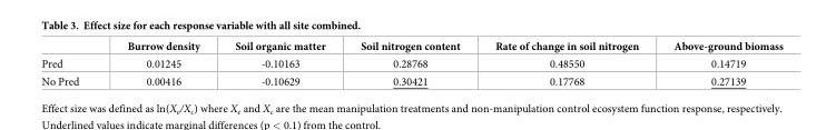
<table><thead><tr><td></td><td>Burrow density</td><td>Soil organic matter</td><td>Soil nitrogen content</td><td>Rate of change in soil nitrogen</td><td>Above-ground biomass</td></tr></thead><tbody><tr><td>Pred</td><td>0.01245</td><td>-0.10163</td><td>0.28768</td><td>0.48550</td><td>0.14719</td></tr><tr><td>No Pred</td><td>0.00416</td><td>-0.10629</td><td>0.30421</td><td>0.17768</td><td>0.27139</td></tr></tbody></table>